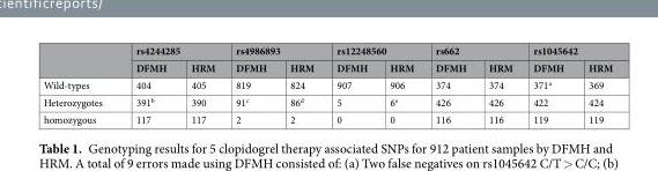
<table><thead><tr><td rowspan="2"></td><td colspan="2">rs4244285</td><td colspan="2">rs4986893</td><td colspan="2">rs12248560</td><td colspan="2">rs662</td><td colspan="2">rs1045642</td></tr><tr><td>DFMH</td><td>HRM</td><td>DFMH</td><td>HRM</td><td>DFMH</td><td>HRM</td><td>DFMH</td><td>HRM</td><td>DFMH</td><td>HRM</td></tr></thead><tbody><tr><td>Wild-types</td><td>404</td><td>405</td><td>819</td><td>824</td><td>907</td><td>906</td><td>374</td><td>374</td><td>371<sup>a</sup></td><td>369</td></tr><tr><td>Heterozygotes</td><td>391<sup>b</sup></td><td>390</td><td>91<sup>c</sup></td><td>86<sup>d</sup></td><td>5</td><td>6<sup>e</sup></td><td>426</td><td>426</td><td>422</td><td>424</td></tr><tr><td>homozygous</td><td>117</td><td>117</td><td>2</td><td>2</td><td>0</td><td>0</td><td>116</td><td>116</td><td>119</td><td>119</td></tr></tbody></table>